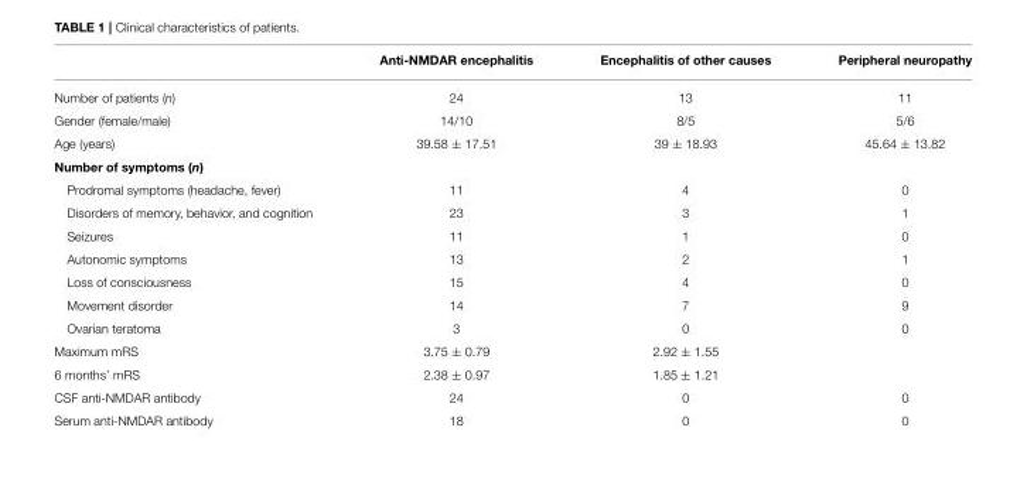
<table><thead><tr><td></td><td>Anti-NMDAR encephalitis</td><td>Encephalitis of other causes</td><td>Peripheral neuropathy</td></tr></thead><tbody><tr><td>Number of patients (n)</td><td>24</td><td>13</td><td>11</td></tr><tr><td>Gender (female/male)</td><td>14/10</td><td>8/5</td><td>5/6</td></tr><tr><td>Age (years)</td><td>39.58 ± 17.51</td><td>39 ± 18.93</td><td>45.64 ± 13.82</td></tr><tr><td colspan="4">Number of symptoms (n)</td></tr><tr><td>Prodromal symptoms (headache, fever)</td><td>11</td><td>4</td><td>0</td></tr><tr><td>Disorders of memory, behavior, and cognition</td><td>23</td><td>3</td><td>1</td></tr><tr><td>Seizures</td><td>11</td><td>1</td><td>0</td></tr><tr><td>Autonomic symptoms</td><td>13</td><td>2</td><td>1</td></tr><tr><td>Loss of consciousness</td><td>15</td><td>4</td><td>0</td></tr><tr><td>Movement disorder</td><td>14</td><td>7</td><td>9</td></tr><tr><td>Ovarian teratoma</td><td>3</td><td>0</td><td>0</td></tr><tr><td>Maximum mRS</td><td>3.75 ± 0.79</td><td>2.92 ± 1.55</td><td></td></tr><tr><td>6 months’ mRS</td><td>2.38 ± 0.97</td><td>1.85 ± 1.21</td><td></td></tr><tr><td>CSF anti-NMDAR antibody</td><td>24</td><td>0</td><td>0</td></tr><tr><td>Serum anti-NMDAR antibody</td><td>18</td><td>0</td><td>0</td></tr></tbody></table>